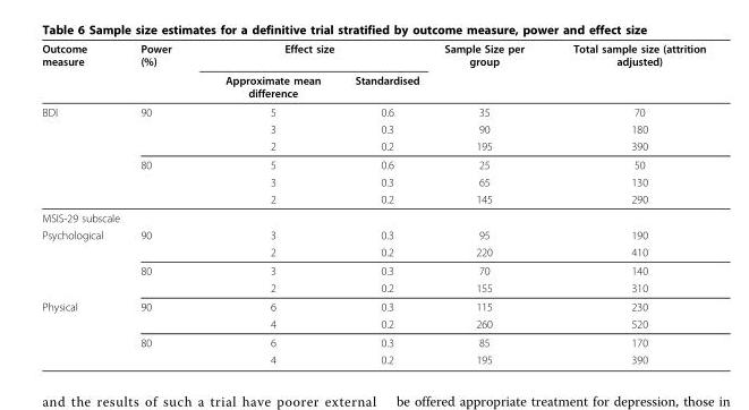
<table><thead><tr><td rowspan="2">Outcome measure</td><td rowspan="2">Power (%)</td><td colspan="2">Effect size</td><td rowspan="2">Sample Size per group</td><td rowspan="2">Total sample size (attrition adjusted)</td></tr><tr><td>Approximate mean difference</td><td>Standardised</td></tr></thead><tbody><tr><td rowspan="6">BDI</td><td>90</td><td>5</td><td>0.6</td><td>35</td><td>70</td></tr><tr><td></td><td>3</td><td>0.3</td><td>90</td><td>180</td></tr><tr><td></td><td>2</td><td>0.2</td><td>195</td><td>390</td></tr><tr><td>80</td><td>5</td><td>0.6</td><td>25</td><td>50</td></tr><tr><td></td><td>3</td><td>0.3</td><td>65</td><td>130</td></tr><tr><td></td><td>2</td><td>0.2</td><td>145</td><td>290</td></tr><tr><td colspan="6">MSIS-29 subscale</td></tr><tr><td rowspan="4">Psychological</td><td>90</td><td>3</td><td>0.3</td><td>95</td><td>190</td></tr><tr><td></td><td>2</td><td>0.2</td><td>220</td><td>410</td></tr><tr><td>80</td><td>3</td><td>0.3</td><td>70</td><td>140</td></tr><tr><td></td><td>2</td><td>0.2</td><td>155</td><td>310</td></tr><tr><td rowspan="4">Physical</td><td>90</td><td>6</td><td>0.3</td><td>115</td><td>230</td></tr><tr><td></td><td>4</td><td>0.2</td><td>260</td><td>520</td></tr><tr><td>80</td><td>6</td><td>0.3</td><td>85</td><td>170</td></tr><tr><td></td><td>4</td><td>0.2</td><td>195</td><td>390</td></tr></tbody></table>